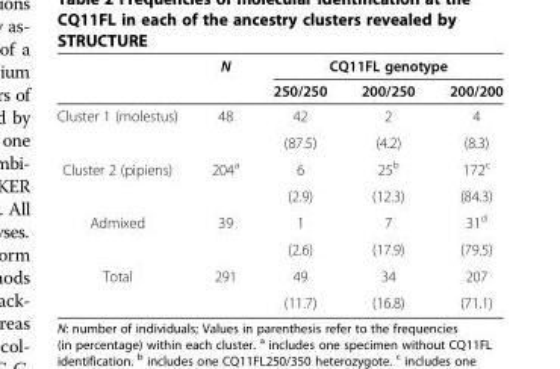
<table><thead><tr><td rowspan="2"></td><td rowspan="2">N</td><td colspan="3">CQ11FL genotype</td></tr><tr><td>250/250</td><td>200/250</td><td>200/200</td></tr></thead><tbody><tr><td rowspan="2">Cluster 1 (molestus)</td><td rowspan="2">48</td><td>42</td><td>2</td><td>4</td></tr><tr><td>(87.5)</td><td>(4.2)</td><td>(8.3)</td></tr><tr><td rowspan="2">Cluster 2 (pipiens)</td><td rowspan="2">204<sup>a</sup></td><td>6</td><td>25<sup>b</sup></td><td>172<sup>c</sup></td></tr><tr><td>(2.9)</td><td>(12.3)</td><td>(84.3)</td></tr><tr><td rowspan="2">Admixed</td><td rowspan="2">39</td><td>1</td><td>7</td><td>31<sup>d</sup></td></tr><tr><td>(2.6)</td><td>(17.9)</td><td>(79.5)</td></tr><tr><td rowspan="2">Total</td><td>291</td><td>49</td><td>34</td><td>207</td></tr><tr><td></td><td>(11.7)</td><td>(16.8)</td><td>(71.1)</td></tr></tbody></table>